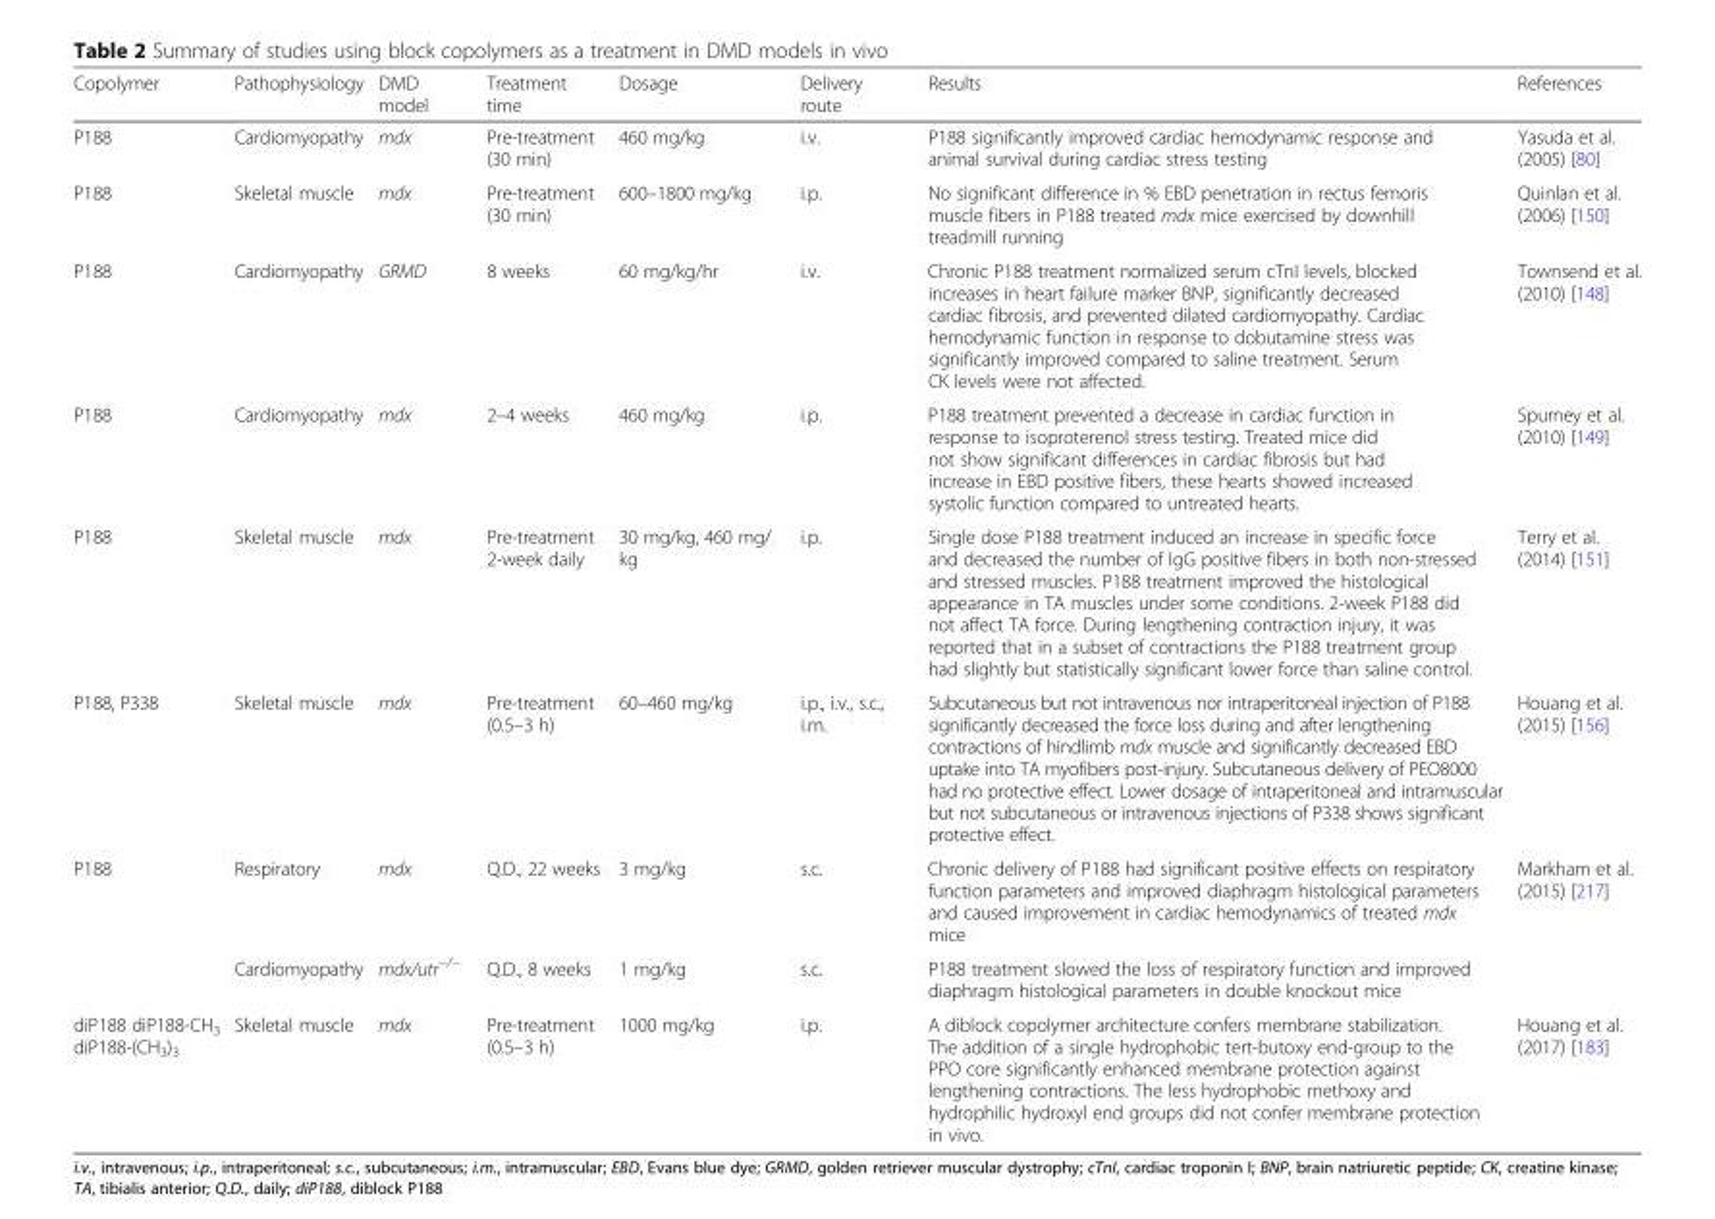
<table><thead><tr><td>Copolymer</td><td>Pathophysiology</td><td>DMD model</td><td>Treatment time</td><td>Dosage</td><td>Delivery route</td><td>Results</td><td>References</td></tr></thead><tbody><tr><td>P188</td><td>Cardiomyopathy</td><td>mdx</td><td>Pre-treatment (30 min)</td><td>460 mg/kg</td><td>i.v.</td><td>P188 significantly improved cardiac hemodynamic response and animal survival during cardiac stress testing</td><td>Yasuda et al. (2005) [80]</td></tr><tr><td>P188</td><td>Skeletal muscle</td><td>mdx</td><td>Pre-treatment (30 min)</td><td>600–1800 mg/kg</td><td>i.p.</td><td>No significant difference in % EBD penetration in rectus femoris muscle fibers in P188 treated mdx mice exercised by downhill treadmill running</td><td>Quinlan et al. (2006) [150]</td></tr><tr><td>P188</td><td>Cardiomyopathy</td><td>GRMD</td><td>8 weeks</td><td>60 mg/kg/hr</td><td>i.v.</td><td>Chronic P188 treatment normalized serum cTnI levels, blocked increases in heart failure marker BNP, significantly decreased cardiac fibrosis, and prevented dilated cardiomyopathy. Cardiac hemodynamic function in response to dobutamine stress was significantly improved compared to saline treatment. Serum CK levels were not affected.</td><td>Townsend et al. (2010) [148]</td></tr><tr><td>P188</td><td>Cardiomyopathy</td><td>mdx</td><td>2–4 weeks</td><td>460 mg/kg</td><td>i.p.</td><td>P188 treatment prevented a decrease in cardiac function in response to isoproterenol stress testing. Treated mice did not show significant differences in cardiac fibrosis but had increase in EBD positive fibers, these hearts showed increased systolic function compared to untreated hearts.</td><td>Spurney et al. (2010) [149]</td></tr><tr><td>P188</td><td>Skeletal muscle</td><td>mdx</td><td>Pre-treatment 2-week daily</td><td>30 mg/kg, 460 mg/ kg</td><td>i.p.</td><td>Single dose P188 treatment induced an increase in specific force and decreased the number of IgG positive fibers in both non-stressed and stressed muscles. P188 treatment improved the histological appearance in TA muscles under some conditions. 2-week P188 did not affect TA force. During lengthening contraction injury, it was reported that in a subset of contractions the P188 treatment group had slightly but statistically significant lower force than saline control.</td><td>Terry et al. (2014) [151]</td></tr><tr><td>P188, P338</td><td>Skeletal muscle</td><td>mdx</td><td>Pre-treatment (0.5–3 h)</td><td>60–460 mg/kg</td><td>i.p., i.v., s.c., i.m.</td><td>Subcutaneous but not intravenous nor intraperitoneal injection of P188 significantly decreased the force loss during and after lengthening contractions of hindlimb mdx muscle and significantly decreased EBD uptake into TA myofibers post-injury. Subcutaneous delivery of PEO8000 had no protective effect. Lower dosage of intraperitoneal and intramuscular but not subcutaneous or intravenous injections of P338 shows significant protective effect.</td><td>Houang et al. (2015) [156]</td></tr><tr><td rowspan="2">P188</td><td>Respiratory</td><td>mdx</td><td>Q.D., 22 weeks</td><td>3 mg/kg</td><td>s.c.</td><td>Chronic delivery of P188 had significant positive effects on respiratory function parameters and improved diaphragm histological parameters and caused improvement in cardiac hemodynamics of treated mdx mice</td><td rowspan="2">Markham et al. (2015) [217]</td></tr><tr><td>Cardiomyopathy</td><td>mdx/utr<sup>−/−</sup></td><td>Q.D., 8 weeks</td><td>1 mg/kg</td><td>s.c.</td><td>P188 treatment slowed the loss of respiratory function and improved diaphragm histological parameters in double knockout mice</td></tr><tr><td>diP188 diP188-CH<sub>3</sub> diP188-(CH<sub>3</sub>)<sub>3</sub></td><td>Skeletal muscle</td><td>mdx</td><td>Pre-treatment (0.5–3 h)</td><td>1000 mg/kg</td><td>i.p.</td><td>A diblock copolymer architecture confers membrane stabilization. The addition of a single hydrophobic tert-butoxy end-group to the PPO core significantly enhanced membrane protection against lengthening contractions. The less hydrophobic methoxy and hydrophilic hydroxyl end groups did not confer membrane protection in vivo.</td><td>Houang et al. (2017) [183]</td></tr></tbody></table>